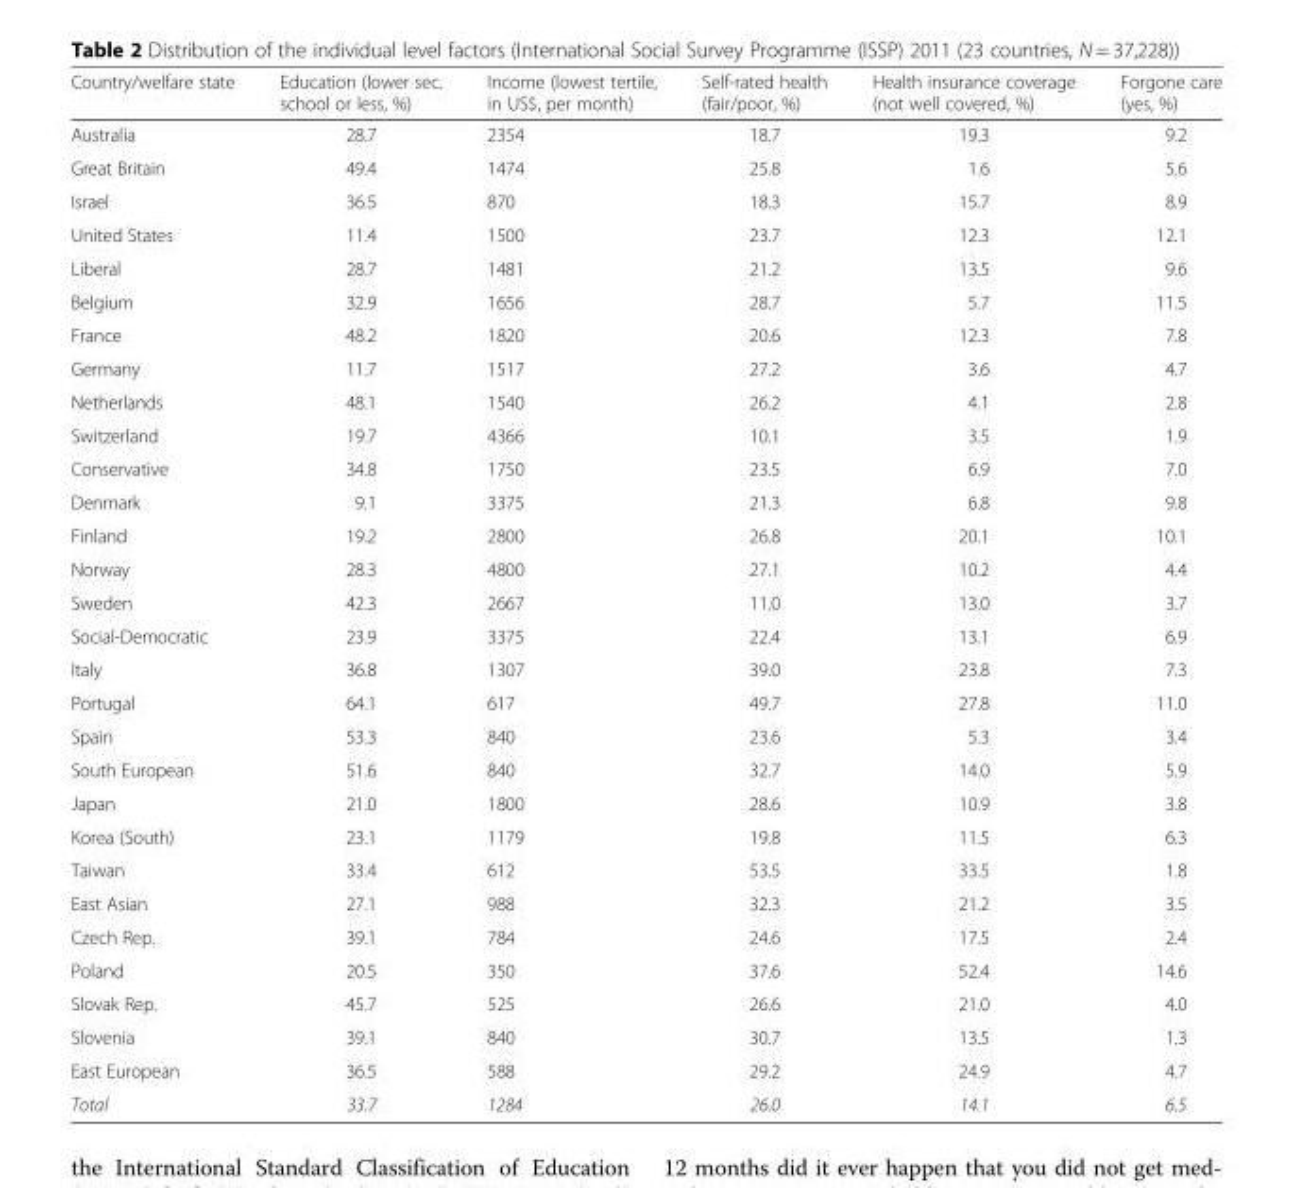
<table><thead><tr><td>Country/welfare state</td><td>Education (lower sec. school or less, %)</td><td>Income (lowest tertile, in US$, per month)</td><td>Self-rated health (fair/poor, %)</td><td>Health insurance coverage (not well covered, %)</td><td>Forgone care (yes, %)</td></tr></thead><tbody><tr><td>Australia</td><td>28.7</td><td>2354</td><td>18.7</td><td>19.3</td><td>9.2</td></tr><tr><td>Great Britain</td><td>49.4</td><td>1474</td><td>25.8</td><td>1.6</td><td>5.6</td></tr><tr><td>Israel</td><td>36.5</td><td>870</td><td>18.3</td><td>15.7</td><td>8.9</td></tr><tr><td>United States</td><td>11.4</td><td>1500</td><td>23.7</td><td>12.3</td><td>12.1</td></tr><tr><td>Liberal</td><td>28.7</td><td>1481</td><td>21.2</td><td>13.5</td><td>9.6</td></tr><tr><td>Belgium</td><td>32.9</td><td>1656</td><td>28.7</td><td>5.7</td><td>11.5</td></tr><tr><td>France</td><td>48.2</td><td>1820</td><td>20.6</td><td>12.3</td><td>7.8</td></tr><tr><td>Germany</td><td>11.7</td><td>1517</td><td>27.2</td><td>3.6</td><td>4.7</td></tr><tr><td>Netherlands</td><td>48.1</td><td>1540</td><td>26.2</td><td>4.1</td><td>2.8</td></tr><tr><td>Switzerland</td><td>19.7</td><td>4366</td><td>10.1</td><td>3.5</td><td>1.9</td></tr><tr><td>Conservative</td><td>34.8</td><td>1750</td><td>23.5</td><td>6.9</td><td>7.0</td></tr><tr><td>Denmark</td><td>9.1</td><td>3375</td><td>21.3</td><td>6.8</td><td>9.8</td></tr><tr><td>Finland</td><td>19.2</td><td>2800</td><td>26.8</td><td>20.1</td><td>10.1</td></tr><tr><td>Norway</td><td>28.3</td><td>4800</td><td>27.1</td><td>10.2</td><td>4.4</td></tr><tr><td>Sweden</td><td>42.3</td><td>2667</td><td>11.0</td><td>13.0</td><td>3.7</td></tr><tr><td>Social-Democratic</td><td>23.9</td><td>3375</td><td>22.4</td><td>13.1</td><td>6.9</td></tr><tr><td>Italy</td><td>36.8</td><td>1307</td><td>39.0</td><td>23.8</td><td>7.3</td></tr><tr><td>Portugal</td><td>64.1</td><td>617</td><td>49.7</td><td>27.8</td><td>11.0</td></tr><tr><td>Spain</td><td>53.3</td><td>840</td><td>23.6</td><td>5.3</td><td>3.4</td></tr><tr><td>South European</td><td>51.6</td><td>840</td><td>32.7</td><td>14.0</td><td>5.9</td></tr><tr><td>Japan</td><td>21.0</td><td>1800</td><td>28.6</td><td>10.9</td><td>3.8</td></tr><tr><td>Korea (South)</td><td>23.1</td><td>1179</td><td>19.8</td><td>11.5</td><td>6.3</td></tr><tr><td>Taiwan</td><td>33.4</td><td>612</td><td>53.5</td><td>33.5</td><td>1.8</td></tr><tr><td>East Asian</td><td>27.1</td><td>988</td><td>32.3</td><td>21.2</td><td>3.5</td></tr><tr><td>Czech Rep.</td><td>39.1</td><td>784</td><td>24.6</td><td>17.5</td><td>2.4</td></tr><tr><td>Poland</td><td>20.5</td><td>350</td><td>37.6</td><td>52.4</td><td>14.6</td></tr><tr><td>Slovak Rep.</td><td>45.7</td><td>525</td><td>26.6</td><td>21.0</td><td>4.0</td></tr><tr><td>Slovenia</td><td>39.1</td><td>840</td><td>30.7</td><td>13.5</td><td>1.3</td></tr><tr><td>East European</td><td>36.5</td><td>588</td><td>29.2</td><td>24.9</td><td>4.7</td></tr><tr><td>Total</td><td>33.7</td><td>1284</td><td>26.0</td><td>14.1</td><td>6.5</td></tr></tbody></table>